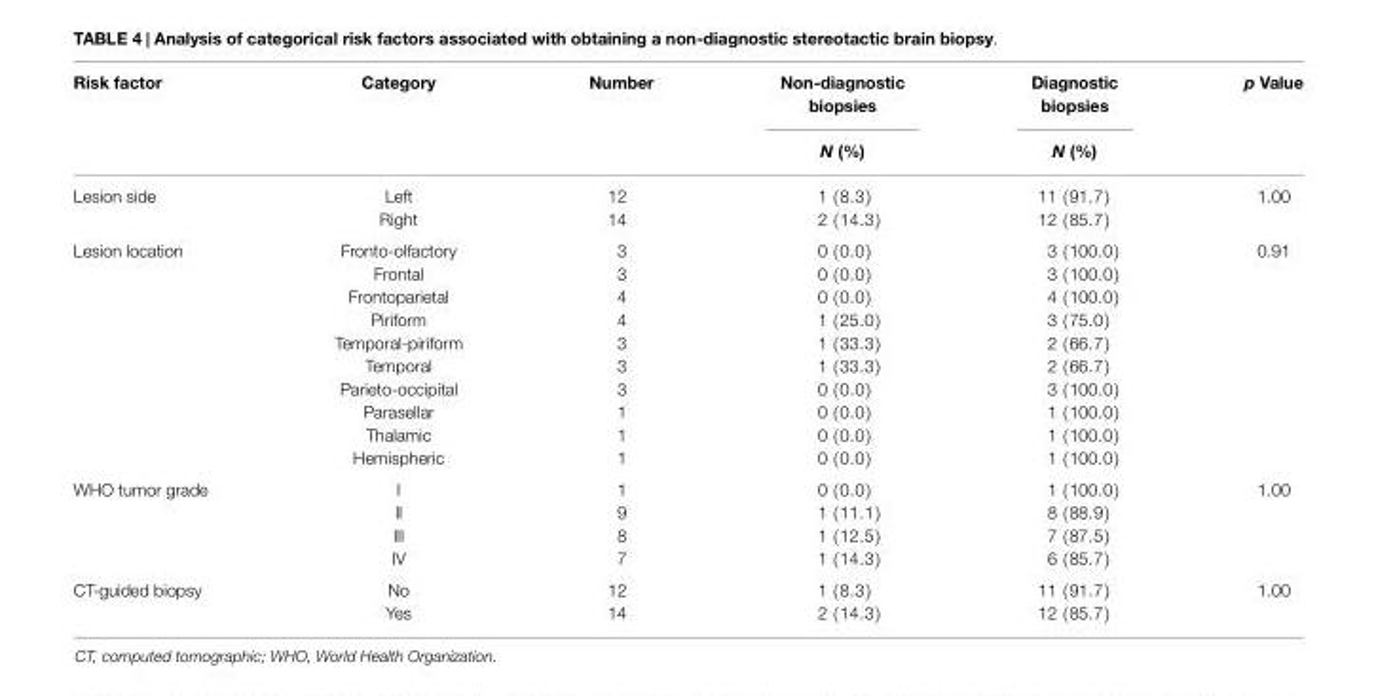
<table><thead><tr><td rowspan="2">Risk factor</td><td rowspan="2">Category</td><td rowspan="2">Number</td><td rowspan="2">Non-diagnostic biopsies N (%)</td><td rowspan="2">Diagnostic biopsies N (%)</td><td rowspan="2">p Value</td></tr><tr></tr></thead><tbody><tr><td rowspan="2">Lesion side</td><td>Left</td><td>12</td><td>1 (8.3)</td><td>11 (91.7)</td><td>1.00</td></tr><tr><td>Right</td><td>14</td><td>2 (14.3)</td><td>12 (85.7)</td><td></td></tr><tr><td rowspan="10">Lesion location</td><td>Fronto-olfactory</td><td>3</td><td>0 (0.0)</td><td>3 (100.0)</td><td>0.91</td></tr><tr><td>Frontal</td><td>3</td><td>0 (0.0)</td><td>3 (100.0)</td><td></td></tr><tr><td>Frontoparietal</td><td>4</td><td>0 (0.0)</td><td>4 (100.0)</td><td></td></tr><tr><td>Piriform</td><td>4</td><td>1 (25.0)</td><td>3 (75.0)</td><td></td></tr><tr><td>Temporal-piriform</td><td>3</td><td>1 (33.3)</td><td>2 (66.7)</td><td></td></tr><tr><td>Temporal</td><td>3</td><td>1 (33.3)</td><td>2 (66.7)</td><td></td></tr><tr><td>Parieto-occipital</td><td>3</td><td>0 (0.0)</td><td>3 (100.0)</td><td></td></tr><tr><td>Parasellar</td><td>1</td><td>0 (0.0)</td><td>1 (100.0)</td><td></td></tr><tr><td>Thalamic</td><td>1</td><td>0 (0.0)</td><td>1 (100.0)</td><td></td></tr><tr><td>Hemispheric</td><td>1</td><td>0 (0.0)</td><td>1 (100.0)</td><td></td></tr><tr><td rowspan="4">WHO tumor grade</td><td>I</td><td>1</td><td>0 (0.0)</td><td>1 (100.0)</td><td>1.00</td></tr><tr><td>II</td><td>9</td><td>1 (11.1)</td><td>8 (88.9)</td><td></td></tr><tr><td>III</td><td>8</td><td>1 (12.5)</td><td>7 (87.5)</td><td></td></tr><tr><td>IV</td><td>7</td><td>1 (14.3)</td><td>6 (85.7)</td><td></td></tr><tr><td rowspan="2">CT-guided biopsy</td><td>No</td><td>12</td><td>1 (8.3)</td><td>11 (91.7)</td><td>1.00</td></tr><tr><td>Yes</td><td>14</td><td>2 (14.3)</td><td>12 (85.7)</td><td></td></tr></tbody></table>